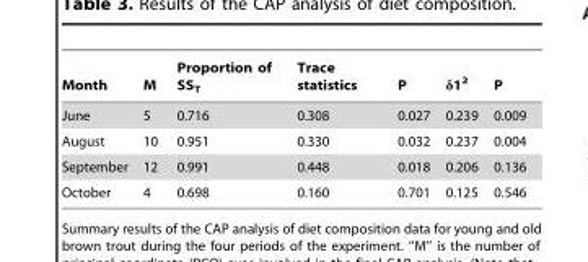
<table><thead><tr><td>Month</td><td>M</td><td>Proportion of SS<sub>T</sub></td><td>Trace statistics</td><td>P</td><td>δ1<sup>2</sup></td><td>P</td></tr></thead><tbody><tr><td>June</td><td>5</td><td>0.716</td><td>0.308</td><td>0.027</td><td>0.239</td><td>0.009</td></tr><tr><td>August</td><td>10</td><td>0.951</td><td>0.330</td><td>0.032</td><td>0.237</td><td>0.004</td></tr><tr><td>September</td><td>12</td><td>0.991</td><td>0.448</td><td>0.018</td><td>0.206</td><td>0.136</td></tr><tr><td>October</td><td>4</td><td>0.698</td><td>0.160</td><td>0.701</td><td>0.125</td><td>0.546</td></tr></tbody></table>